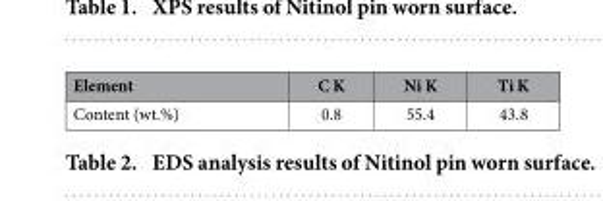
<table><thead><tr><td>Element</td><td>C K</td><td>Ni K</td><td>Ti K</td></tr></thead><tbody><tr><td>Content (wt.%)</td><td>0.8</td><td>55.4</td><td>43.8</td></tr></tbody></table>